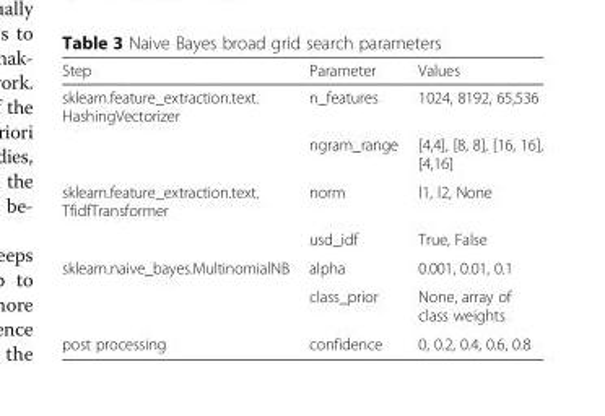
<table><thead><tr><td>Step</td><td>Parameter</td><td>Values</td></tr></thead><tbody><tr><td rowspan="2">sklearn.feature_extraction.text. HashingVectorizer</td><td>n_features</td><td>1024, 8192, 65,536</td></tr><tr><td>ngram_range</td><td>[4,4], [8, 8], [16, 16], [4,16]</td></tr><tr><td rowspan="2">sklearn.feature_extraction.text. TfidfTransformer</td><td>norm</td><td>l1, l2, None</td></tr><tr><td>usd_idf</td><td>True, False</td></tr><tr><td rowspan="2">sklearn.naive_bayes.MultinomialNB</td><td>alpha</td><td>0.001, 0.01, 0.1</td></tr><tr><td>class_prior</td><td>None, array of class weights</td></tr><tr><td>post processing</td><td>confidence</td><td>0, 0.2, 0.4, 0.6, 0.8</td></tr></tbody></table>